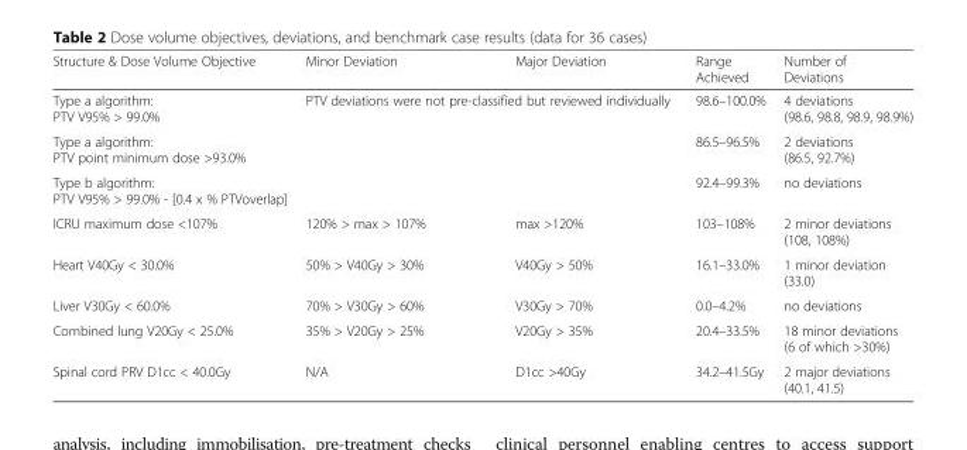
<table><thead><tr><td>Structure &amp; Dose Volume Objective</td><td>Minor Deviation</td><td>Major Deviation</td><td>Range Achieved</td><td>Number of Deviations</td></tr></thead><tbody><tr><td>Type a algorithm: PTV V95% &gt; 99.0%</td><td rowspan="3" colspan="2">PTV deviations were not pre-classified but reviewed individually</td><td>98.6–100.0%</td><td>4 deviations (98.6, 98.8, 98.9, 98.9%)</td></tr><tr><td>Type a algorithm: PTV point minimum dose &gt;93.0%</td><td>86.5–96.5%</td><td>2 deviations (86.5, 92.7%)</td></tr><tr><td>Type b algorithm: PTV V95% &gt; 99.0% - [0.4 x % PTVoverlap]</td><td>92.4–99.3%</td><td>no deviations</td></tr><tr><td>ICRU maximum dose &lt;107%</td><td>120% &gt; max &gt; 107%</td><td>max &gt;120%</td><td>103–108%</td><td>2 minor deviations (108, 108%)</td></tr><tr><td>Heart V40Gy &lt; 30.0%</td><td>50% &gt; V40Gy &gt; 30%</td><td>V40Gy &gt; 50%</td><td>16.1–33.0%</td><td>1 minor deviation (33.0)</td></tr><tr><td>Liver V30Gy &lt; 60.0%</td><td>70% &gt; V30Gy &gt; 60%</td><td>V30Gy &gt; 70%</td><td>0.0–4.2%</td><td>no deviations</td></tr><tr><td>Combined lung V20Gy &lt; 25.0%</td><td>35% &gt; V20Gy &gt; 25%</td><td>V20Gy &gt; 35%</td><td>20.4–33.5%</td><td>18 minor deviations (6 of which &gt;30%)</td></tr><tr><td>Spinal cord PRV D1cc &lt; 40.0Gy</td><td>N/A</td><td>D1cc &gt;40Gy</td><td>34.2–41.5Gy</td><td>2 major deviations (40.1, 41.5)</td></tr></tbody></table>